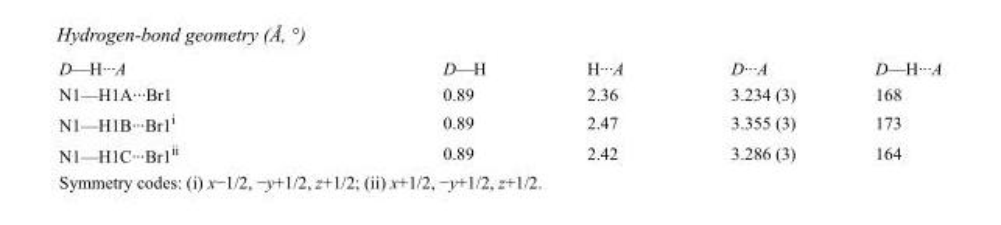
<table><tbody><tr><td>D—H···A</td><td>D—H</td><td>H···A</td><td>D···A</td><td>D—H···A</td></tr><tr><td>N1—H1A···Br1</td><td>0.89</td><td>2.36</td><td>3.234 (3)</td><td>168</td></tr><tr><td>N1—H1B···Br1<sup>i</sup></td><td>0.89</td><td>2.47</td><td>3.355 (3)</td><td>173</td></tr><tr><td>N1—H1C···Br1<sup>ii</sup></td><td>0.89</td><td>2.42</td><td>3.286 (3)</td><td>164</td></tr></tbody></table>